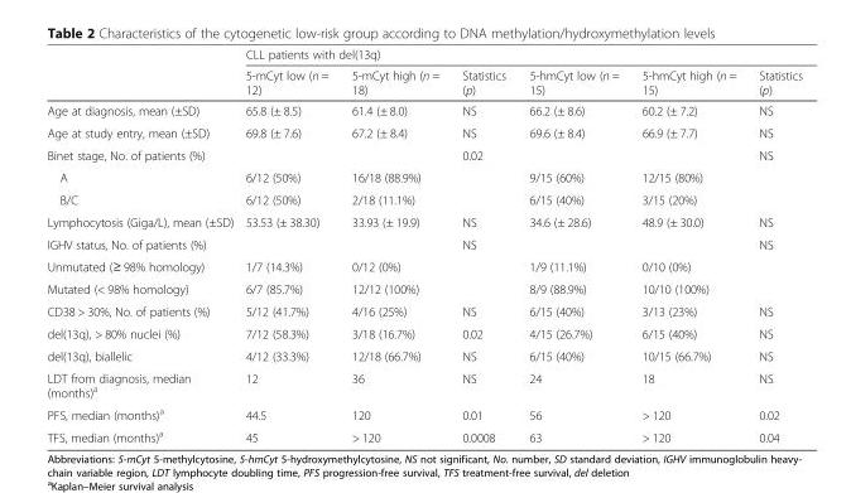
<table><thead><tr><td rowspan="2"></td><td colspan="6">CLL patients with del(13q)</td></tr><tr><td>5-mCyt low (n = 12)</td><td>5-mCyt high (n = 18)</td><td>Statistics (p)</td><td>5-hmCyt low (n = 15)</td><td>5-hmCyt high (n = 15)</td><td>Statistics (p)</td></tr></thead><tbody><tr><td>Age at diagnosis, mean (±SD)</td><td>65.8 (± 8.5)</td><td>61.4 (± 8.0)</td><td>NS</td><td>66.2 (± 8.6)</td><td>60.2 (± 7.2)</td><td>NS</td></tr><tr><td>Age at study entry, mean (±SD)</td><td>69.8 (± 7.6)</td><td>67.2 (± 8.4)</td><td>NS</td><td>69.6 (± 8.4)</td><td>66.9 (± 7.7)</td><td>NS</td></tr><tr><td>Binet stage, No. of patients (%)</td><td></td><td></td><td>0.02</td><td></td><td></td><td>NS</td></tr><tr><td>A</td><td>6/12 (50%)</td><td>16/18 (88.9%)</td><td></td><td>9/15 (60%)</td><td>12/15 (80%)</td><td></td></tr><tr><td>B/C</td><td>6/12 (50%)</td><td>2/18 (11.1%)</td><td></td><td>6/15 (40%)</td><td>3/15 (20%)</td><td></td></tr><tr><td>Lymphocytosis (Giga/L), mean (±SD)</td><td>53.53 (± 38.30)</td><td>33.93 (± 19.9)</td><td>NS</td><td>34.6 (± 28.6)</td><td>48.9 (± 30.0)</td><td>NS</td></tr><tr><td>IGHV status, No. of patients (%)</td><td></td><td></td><td>NS</td><td></td><td></td><td>NS</td></tr><tr><td>Unmutated (≥ 98% homology)</td><td>1/7 (14.3%)</td><td>0/12 (0%)</td><td></td><td>1/9 (11.1%)</td><td>0/10 (0%)</td><td></td></tr><tr><td>Mutated (&lt; 98% homology)</td><td>6/7 (85.7%)</td><td>12/12 (100%)</td><td></td><td>8/9 (88.9%)</td><td>10/10 (100%)</td><td></td></tr><tr><td>CD38 &gt; 30%, No. of patients (%)</td><td>5/12 (41.7%)</td><td>4/16 (25%)</td><td>NS</td><td>6/15 (40%)</td><td>3/13 (23%)</td><td>NS</td></tr><tr><td>del(13q), &gt; 80% nuclei (%)</td><td>7/12 (58.3%)</td><td>3/18 (16.7%)</td><td>0.02</td><td>4/15 (26.7%)</td><td>6/15 (40%)</td><td>NS</td></tr><tr><td>del(13q), biallelic</td><td>4/12 (33.3%)</td><td>12/18 (66.7%)</td><td>NS</td><td>6/15 (40%)</td><td>10/15 (66.7%)</td><td>NS</td></tr><tr><td>LDT from diagnosis, median (months)<sup>a</sup></td><td>12</td><td>36</td><td>NS</td><td>24</td><td>18</td><td>NS</td></tr><tr><td>PFS, median (months)<sup>a</sup></td><td>44.5</td><td>120</td><td>0.01</td><td>56</td><td>&gt; 120</td><td>0.02</td></tr><tr><td>TFS, median (months)<sup>a</sup></td><td>45</td><td>&gt; 120</td><td>0.0008</td><td>63</td><td>&gt; 120</td><td>0.04</td></tr></tbody></table>